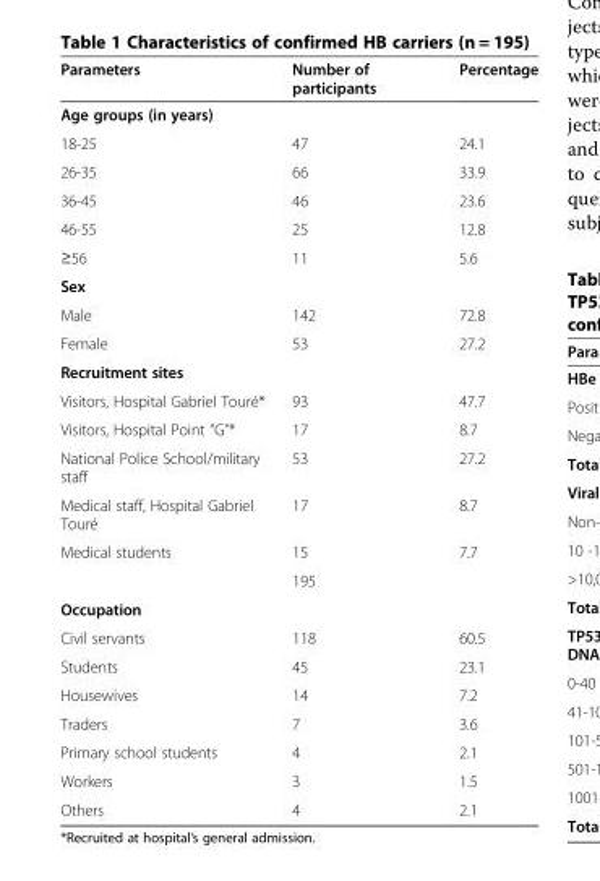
<table><thead><tr><td>Parameters</td><td>Number of participants</td><td>Percentage</td></tr></thead><tbody><tr><td colspan="3">Age groups (in years)</td></tr><tr><td>18-25</td><td>47</td><td>24.1</td></tr><tr><td>26-35</td><td>66</td><td>33.9</td></tr><tr><td>36-45</td><td>46</td><td>23.6</td></tr><tr><td>46-55</td><td>25</td><td>12.8</td></tr><tr><td>≥56</td><td>11</td><td>5.6</td></tr><tr><td colspan="3">Sex</td></tr><tr><td>Male</td><td>142</td><td>72.8</td></tr><tr><td>Female</td><td>53</td><td>27.2</td></tr><tr><td colspan="3">Recruitment sites</td></tr><tr><td>Visitors, Hospital Gabriel Touré*</td><td>93</td><td>47.7</td></tr><tr><td>Visitors, Hospital Point “G”*</td><td>17</td><td>8.7</td></tr><tr><td>National Police School/military staff</td><td>53</td><td>27.2</td></tr><tr><td>Medical staff, Hospital Gabriel Touré</td><td>17</td><td>8.7</td></tr><tr><td rowspan="2">Medical students</td><td>15</td><td>7.7</td></tr><tr><td>195</td><td></td></tr><tr><td colspan="3">Occupation</td></tr><tr><td>Civil servants</td><td>118</td><td>60.5</td></tr><tr><td>Students</td><td>45</td><td>23.1</td></tr><tr><td>Housewives</td><td>14</td><td>7.2</td></tr><tr><td>Traders</td><td>7</td><td>3.6</td></tr><tr><td>Primary school students</td><td>4</td><td>2.1</td></tr><tr><td>Workers</td><td>3</td><td>1.5</td></tr><tr><td>Others</td><td>4</td><td>2.1</td></tr></tbody></table>